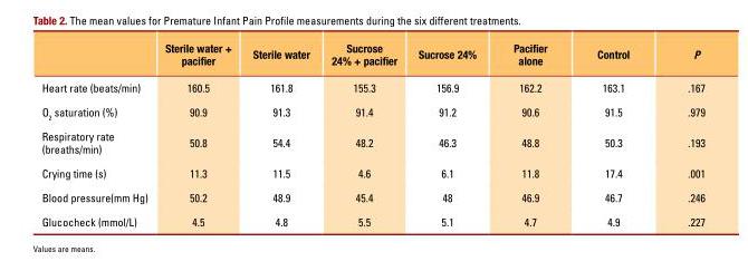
<table><thead><tr><td></td><td>Sterile water + pacifier</td><td>Sterile water</td><td>Sucrose 24% + pacifier</td><td>Sucrose 24%</td><td>Pacifier alone</td><td>Control</td><td>P</td></tr></thead><tbody><tr><td>Heart rate (beats/min)</td><td>160.5</td><td>161.8</td><td>155.3</td><td>156.9</td><td>162.2</td><td>163.1</td><td>.167</td></tr><tr><td>o<sub>2</sub> saturation (%)</td><td>90.9</td><td>91.3</td><td>91.4</td><td>91.2</td><td>90.6</td><td>91.5</td><td>.979</td></tr><tr><td>respiratory rate (breaths/min)</td><td>50.8</td><td>54.4</td><td>48.2</td><td>46.3</td><td>48.8</td><td>50.3</td><td>.193</td></tr><tr><td>Crying time (s)</td><td>11.3</td><td>11.5</td><td>4.6</td><td>6.1</td><td>11.8</td><td>17.4</td><td>.001</td></tr><tr><td>Blood pressure(mm Hg)</td><td>50.2</td><td>48.9</td><td>45.4</td><td>48</td><td>46.9</td><td>46.7</td><td>.246</td></tr><tr><td>Glucocheck (mmol/l)</td><td>4.5</td><td>4.8</td><td>5.5</td><td>5.1</td><td>4.7</td><td>4.9</td><td>.227</td></tr></tbody></table>